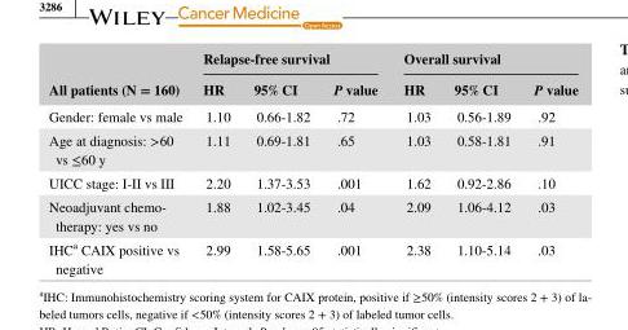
<table><thead><tr><td rowspan="2">All patients (N = 160)</td><td colspan="3">Relapse- free survival</td><td colspan="3">Overall survival</td></tr><tr><td>HR</td><td>95% CI</td><td>P value</td><td>HR</td><td>95% CI</td><td>P value</td></tr></thead><tbody><tr><td>Gender: female vs male</td><td>1.10</td><td>0.66- 1.82</td><td>.72</td><td>1.03</td><td>0.56- 1.89</td><td>.92</td></tr><tr><td>Age at diagnosis: &gt;60 vs ≤60 y</td><td>1.11</td><td>0.69- 1.81</td><td>.65</td><td>1.03</td><td>0.58- 1.81</td><td>.91</td></tr><tr><td>UICC stage: I- II vs III</td><td>2.20</td><td>1.37- 3.53</td><td>.001</td><td>1.62</td><td>0.92- 2.86</td><td>.10</td></tr><tr><td>Neoadjuvant chemo- therapy: yes vs no</td><td>1.88</td><td>1.02- 3.45</td><td>.04</td><td>2.09</td><td>1.06- 4.12</td><td>.03</td></tr><tr><td>IHC<sup>a</sup> CAIX positive vs negative</td><td>2.99</td><td>1.58- 5.65</td><td>.001</td><td>2.38</td><td>1.10- 5.14</td><td>.03</td></tr></tbody></table>